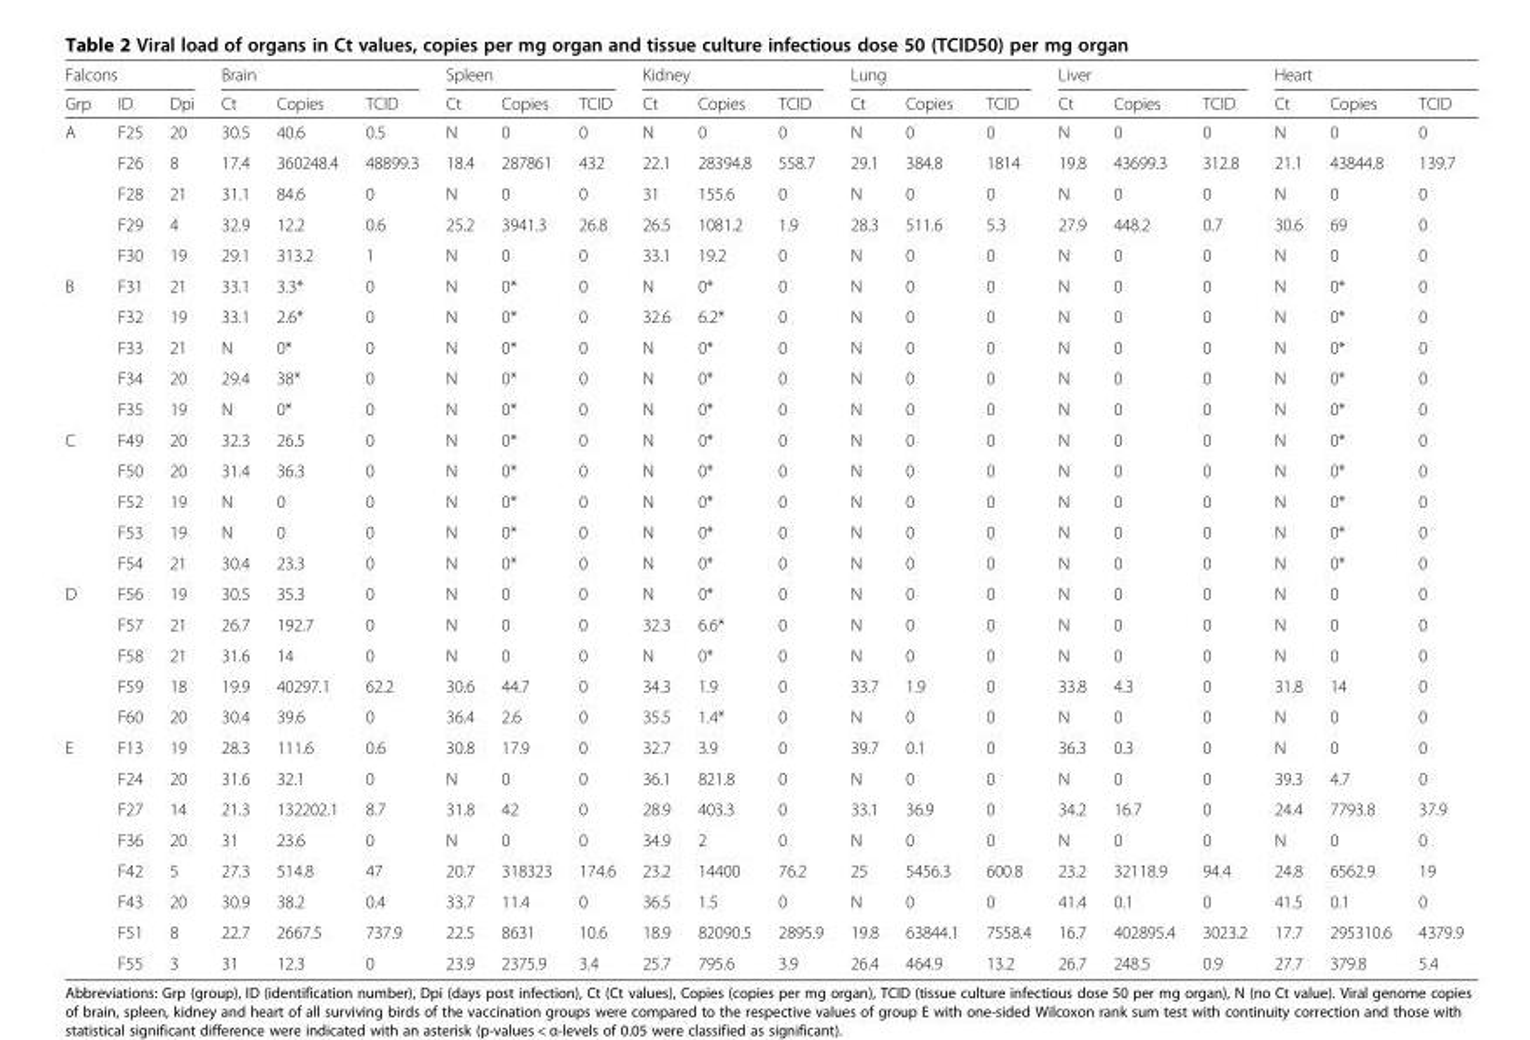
<table><thead><tr><td colspan="3">Falcons</td><td colspan="3">Brain</td><td colspan="3">Spleen</td><td colspan="3">Kidney</td><td colspan="3">Lung</td><td colspan="3">Liver</td><td colspan="3">Heart</td></tr><tr><td>Grp</td><td>ID</td><td>Dpi</td><td>Ct</td><td>Copies</td><td>TCID</td><td>Ct</td><td>Copies</td><td>TCID</td><td>Ct</td><td>Copies</td><td>TCID</td><td>Ct</td><td>Copies</td><td>TCID</td><td>Ct</td><td>Copies</td><td>TCID</td><td>Ct</td><td>Copies</td><td>TCID</td></tr></thead><tbody><tr><td rowspan="5">A</td><td>F25</td><td>20</td><td>30.5</td><td>40.6</td><td>0.5</td><td>N</td><td>0</td><td>0</td><td>N</td><td>0</td><td>0</td><td>N</td><td>0</td><td>0</td><td>N</td><td>0</td><td>0</td><td>N</td><td>0</td><td>0</td></tr><tr><td>F26</td><td>8</td><td>17.4</td><td>360248.4</td><td>48899.3</td><td>18.4</td><td>287861</td><td>432</td><td>22.1</td><td>28394.8</td><td>558.7</td><td>29.1</td><td>384.8</td><td>1814</td><td>19.8</td><td>43699.3</td><td>312.8</td><td>21.1</td><td>43844.8</td><td>139.7</td></tr><tr><td>F28</td><td>21</td><td>31.1</td><td>84.6</td><td>0</td><td>N</td><td>0</td><td>0</td><td>31</td><td>155.6</td><td>0</td><td>N</td><td>0</td><td>0</td><td>N</td><td>0</td><td>0</td><td>N</td><td>0</td><td>0</td></tr><tr><td>F29</td><td>4</td><td>32.9</td><td>12.2</td><td>0.6</td><td>25.2</td><td>3941.3</td><td>26.8</td><td>26.5</td><td>1081.2</td><td>1.9</td><td>28.3</td><td>511.6</td><td>5.3</td><td>27.9</td><td>448.2</td><td>0.7</td><td>30.6</td><td>69</td><td>0</td></tr><tr><td>F30</td><td>19</td><td>29.1</td><td>313.2</td><td>1</td><td>N</td><td>0</td><td>0</td><td>33.1</td><td>19.2</td><td>0</td><td>N</td><td>0</td><td>0</td><td>N</td><td>0</td><td>0</td><td>N</td><td>0</td><td>0</td></tr><tr><td rowspan="5">B</td><td>F31</td><td>21</td><td>33.1</td><td>3.3*</td><td>0</td><td>N</td><td>0*</td><td>0</td><td>N</td><td>0*</td><td>0</td><td>N</td><td>0</td><td>0</td><td>N</td><td>0</td><td>0</td><td>N</td><td>0*</td><td>0</td></tr><tr><td>F32</td><td>19</td><td>33.1</td><td>2.6*</td><td>0</td><td>N</td><td>0*</td><td>0</td><td>32.6</td><td>6.2*</td><td>0</td><td>N</td><td>0</td><td>0</td><td>N</td><td>0</td><td>0</td><td>N</td><td>0*</td><td>0</td></tr><tr><td>F33</td><td>21</td><td>N</td><td>0*</td><td>0</td><td>N</td><td>0*</td><td>0</td><td>N</td><td>0*</td><td>0</td><td>N</td><td>0</td><td>0</td><td>N</td><td>0</td><td>0</td><td>N</td><td>0*</td><td>0</td></tr><tr><td>F34</td><td>20</td><td>29.4</td><td>38*</td><td>0</td><td>N</td><td>0*</td><td>0</td><td>N</td><td>0*</td><td>0</td><td>N</td><td>0</td><td>0</td><td>N</td><td>0</td><td>0</td><td>N</td><td>0*</td><td>0</td></tr><tr><td>F35</td><td>19</td><td>N</td><td>0*</td><td>0</td><td>N</td><td>0*</td><td>0</td><td>N</td><td>0*</td><td>0</td><td>N</td><td>0</td><td>0</td><td>N</td><td>0</td><td>0</td><td>N</td><td>0*</td><td>0</td></tr><tr><td rowspan="5">C</td><td>F49</td><td>20</td><td>32.3</td><td>26.5</td><td>0</td><td>N</td><td>0*</td><td>0</td><td>N</td><td>0*</td><td>0</td><td>N</td><td>0</td><td>0</td><td>N</td><td>0</td><td>0</td><td>N</td><td>0*</td><td>0</td></tr><tr><td>F50</td><td>20</td><td>31.4</td><td>36.3</td><td>0</td><td>N</td><td>0*</td><td>0</td><td>N</td><td>0*</td><td>0</td><td>N</td><td>0</td><td>0</td><td>N</td><td>0</td><td>0</td><td>N</td><td>0*</td><td>0</td></tr><tr><td>F52</td><td>19</td><td>N</td><td>0</td><td>0</td><td>N</td><td>0*</td><td>0</td><td>N</td><td>0*</td><td>0</td><td>N</td><td>0</td><td>0</td><td>N</td><td>0</td><td>0</td><td>N</td><td>0*</td><td>0</td></tr><tr><td>F53</td><td>19</td><td>N</td><td>0</td><td>0</td><td>N</td><td>0*</td><td>0</td><td>N</td><td>0*</td><td>0</td><td>N</td><td>0</td><td>0</td><td>N</td><td>0</td><td>0</td><td>N</td><td>0*</td><td>0</td></tr><tr><td>F54</td><td>21</td><td>30.4</td><td>23.3</td><td>0</td><td>N</td><td>0*</td><td>0</td><td>N</td><td>0*</td><td>0</td><td>N</td><td>0</td><td>0</td><td>N</td><td>0</td><td>0</td><td>N</td><td>0*</td><td>0</td></tr><tr><td rowspan="5">D</td><td>F56</td><td>19</td><td>30.5</td><td>35.3</td><td>0</td><td>N</td><td>0</td><td>0</td><td>N</td><td>0*</td><td>0</td><td>N</td><td>0</td><td>0</td><td>N</td><td>0</td><td>0</td><td>N</td><td>0</td><td>0</td></tr><tr><td>F57</td><td>21</td><td>26.7</td><td>192.7</td><td>0</td><td>N</td><td>0</td><td>0</td><td>32.3</td><td>6.6*</td><td>0</td><td>N</td><td>0</td><td>0</td><td>N</td><td>0</td><td>0</td><td>N</td><td>0</td><td>0</td></tr><tr><td>F58</td><td>21</td><td>31.6</td><td>14</td><td>0</td><td>N</td><td>0</td><td>0</td><td>N</td><td>0*</td><td>0</td><td>N</td><td>0</td><td>0</td><td>N</td><td>0</td><td>0</td><td>N</td><td>0</td><td>0</td></tr><tr><td>F59</td><td>18</td><td>19.9</td><td>40297.1</td><td>62.2</td><td>30.6</td><td>44.7</td><td>0</td><td>34.3</td><td>1.9</td><td>0</td><td>33.7</td><td>1.9</td><td>0</td><td>33.8</td><td>4.3</td><td>0</td><td>31.8</td><td>14</td><td>0</td></tr><tr><td>F60</td><td>20</td><td>30.4</td><td>39.6</td><td>0</td><td>36.4</td><td>2.6</td><td>0</td><td>35.5</td><td>1.4*</td><td>0</td><td>N</td><td>0</td><td>0</td><td>N</td><td>0</td><td>0</td><td>N</td><td>0</td><td>0</td></tr><tr><td rowspan="8">E</td><td>F13</td><td>19</td><td>28.3</td><td>111.6</td><td>0.6</td><td>30.8</td><td>17.9</td><td>0</td><td>32.7</td><td>3.9</td><td>0</td><td>39.7</td><td>0.1</td><td>0</td><td>36.3</td><td>0.3</td><td>0</td><td>N</td><td>0</td><td>0</td></tr><tr><td>F24</td><td>20</td><td>31.6</td><td>32.1</td><td>0</td><td>N</td><td>0</td><td>0</td><td>36.1</td><td>821.8</td><td>0</td><td>N</td><td>0</td><td>0</td><td>N</td><td>0</td><td>0</td><td>39.3</td><td>4.7</td><td>0</td></tr><tr><td>F27</td><td>14</td><td>21.3</td><td>132202.1</td><td>8.7</td><td>31.8</td><td>42</td><td>0</td><td>28.9</td><td>403.3</td><td>0</td><td>33.1</td><td>36.9</td><td>0</td><td>34.2</td><td>16.7</td><td>0</td><td>24.4</td><td>7793.8</td><td>37.9</td></tr><tr><td>F36</td><td>20</td><td>31</td><td>23.6</td><td>0</td><td>N</td><td>0</td><td>0</td><td>34.9</td><td>2</td><td>0</td><td>N</td><td>0</td><td>0</td><td>N</td><td>0</td><td>0</td><td>N</td><td>0</td><td>0</td></tr><tr><td>F42</td><td>5</td><td>27.3</td><td>514.8</td><td>47</td><td>20.7</td><td>318323</td><td>174.6</td><td>23.2</td><td>14400</td><td>76.2</td><td>25</td><td>5456.3</td><td>600.8</td><td>23.2</td><td>32118.9</td><td>94.4</td><td>24.8</td><td>6562.9</td><td>19</td></tr><tr><td>F43</td><td>20</td><td>30.9</td><td>38.2</td><td>0.4</td><td>33.7</td><td>11.4</td><td>0</td><td>36.5</td><td>1.5</td><td>0</td><td>N</td><td>0</td><td>0</td><td>41.4</td><td>0.1</td><td>0</td><td>41.5</td><td>0.1</td><td>0</td></tr><tr><td>F51</td><td>8</td><td>22.7</td><td>2667.5</td><td>737.9</td><td>22.5</td><td>8631</td><td>10.6</td><td>18.9</td><td>82090.5</td><td>2895.9</td><td>19.8</td><td>63844.1</td><td>7558.4</td><td>16.7</td><td>402895.4</td><td>3023.2</td><td>17.7</td><td>295310.6</td><td>4379.9</td></tr><tr><td>F55</td><td>3</td><td>31</td><td>12.3</td><td>0</td><td>23.9</td><td>2375.9</td><td>3.4</td><td>25.7</td><td>795.6</td><td>3.9</td><td>26.4</td><td>464.9</td><td>13.2</td><td>26.7</td><td>248.5</td><td>0.9</td><td>27.7</td><td>379.8</td><td>5.4</td></tr></tbody></table>